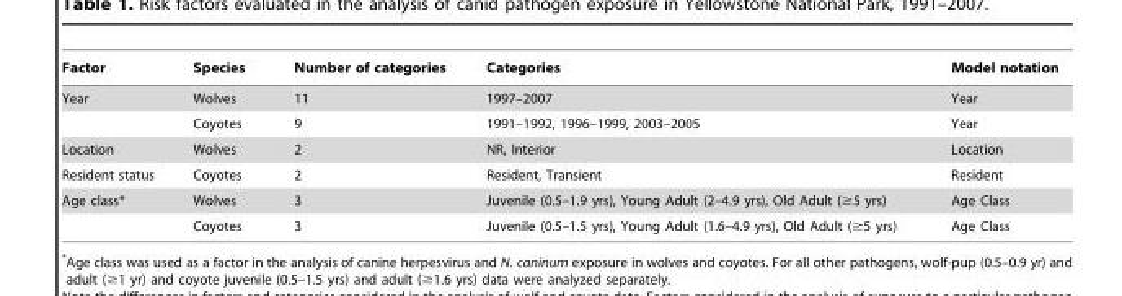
<table><thead><tr><td>Factor</td><td>Species</td><td>Number of categories</td><td>Categories</td><td>Model notation</td></tr></thead><tbody><tr><td rowspan="2">Year</td><td>Wolves</td><td>11</td><td>1997–2007</td><td>Year</td></tr><tr><td>Coyotes</td><td>9</td><td>1991–1992, 1996–1999, 2003–2005</td><td>Year</td></tr><tr><td>Location</td><td>Wolves</td><td>2</td><td>NR, Interior</td><td>Location</td></tr><tr><td>Resident status</td><td>Coyotes</td><td>2</td><td>Resident, Transient</td><td>Resident</td></tr><tr><td rowspan="2">Age class*</td><td>Wolves</td><td>3</td><td>Juvenile (0.5–1.9 yrs), Young Adult (2–4.9 yrs), Old Adult (≥5 yrs)</td><td>Age Class</td></tr><tr><td>Coyotes</td><td>3</td><td>Juvenile (0.5–1.5 yrs), Young Adult (1.6–4.9 yrs), Old Adult (≥5 yrs)</td><td>Age Class</td></tr></tbody></table>